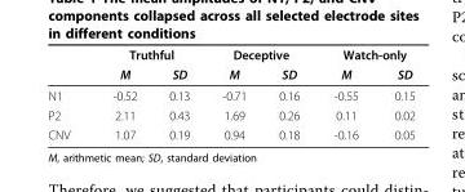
<table><thead><tr><td rowspan="2"></td><td colspan="2">Truthful</td><td colspan="2">Deceptive</td><td colspan="2">Watch-only</td></tr><tr><td>M</td><td>SD</td><td>M</td><td>SD</td><td>M</td><td>SD</td></tr></thead><tbody><tr><td>N1</td><td>-0.52</td><td>0.13</td><td>-0.71</td><td>0.16</td><td>-0.55</td><td>0.15</td></tr><tr><td>P2</td><td>2.11</td><td>0.43</td><td>1.69</td><td>0.26</td><td>0.11</td><td>0.02</td></tr><tr><td>CNV</td><td>1.07</td><td>0.19</td><td>0.94</td><td>0.18</td><td>-0.16</td><td>0.05</td></tr></tbody></table>